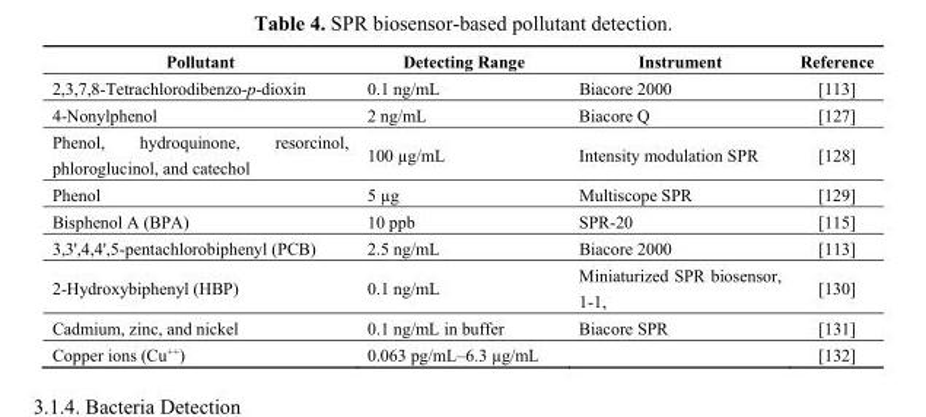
<table><thead><tr><td>Pollutant</td><td>Detecting Range</td><td>Instrument</td><td>Reference</td></tr></thead><tbody><tr><td>2,3,7,8-Tetrachlorodibenzo-p-dioxin</td><td>0.1 ng/mL</td><td>Biacore 2000</td><td>[113]</td></tr><tr><td>4-Nonylphenol</td><td>2 ng/mL</td><td>Biacore Q</td><td>[127]</td></tr><tr><td>Phenol, hydroquinone, resorcinol, phloroglucinol, and catechol</td><td>100 µg/mL</td><td>Intensity modulation SPR</td><td>[128]</td></tr><tr><td>Phenol</td><td>5 µg</td><td>Multiscope SPR</td><td>[129]</td></tr><tr><td>Bisphenol A (BPA)</td><td>10 ppb</td><td>SPR-20</td><td>[115]</td></tr><tr><td>3,3&#x27;,4,4&#x27;,5-pentachlorobiphenyl (PCB)</td><td>2.5 ng/mL</td><td>Biacore 2000</td><td>[113]</td></tr><tr><td>2-Hydroxybiphenyl (HBP)</td><td>0.1 ng/mL</td><td>Miniaturized SPR biosensor, 1-1,</td><td>[130]</td></tr><tr><td>Cadmium, zinc, and nickel</td><td>0.1 ng/mL in buffer</td><td>Biacore SPR</td><td>[131]</td></tr><tr><td>Copper ions (Cu<sup>++</sup>)</td><td>0.063 pg/mL–6.3 µg/mL</td><td></td><td>[132]</td></tr></tbody></table>